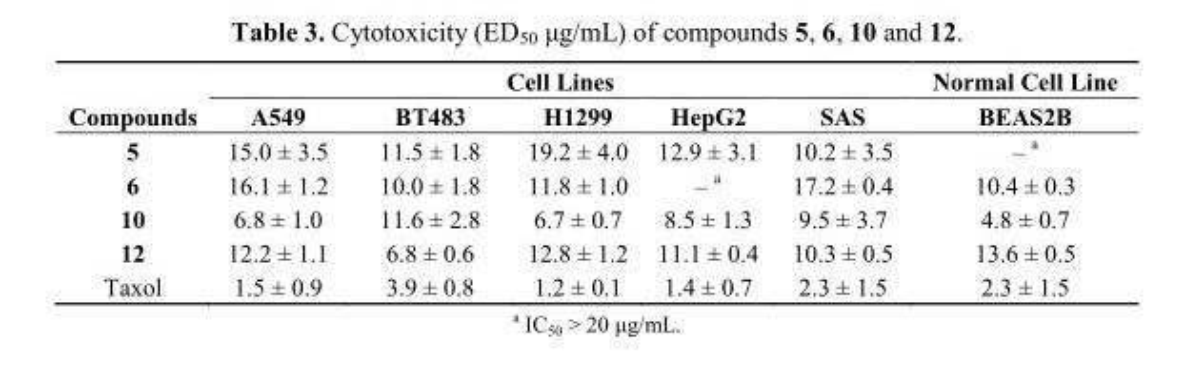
<table><thead><tr><td rowspan="2">Compounds</td><td colspan="5">Cell Lines</td><td rowspan="2">Normal Cell Line BEAS2B</td></tr><tr><td>A549</td><td>BT483</td><td>H1299</td><td>HepG2</td><td>SAS</td></tr></thead><tbody><tr><td>5</td><td>15.0 ± 3.5</td><td>11.5 ± 1.8</td><td>19.2 ± 4.0</td><td>12.9 ± 3.1</td><td>10.2 ± 3.5</td><td>– <sup>a</sup></td></tr><tr><td>6</td><td>16.1 ± 1.2</td><td>10.0 ± 1.8</td><td>11.8 ± 1.0</td><td>– <sup>a</sup></td><td>17.2 ± 0.4</td><td>10.4 ± 0.3</td></tr><tr><td>10</td><td>6.8 ± 1.0</td><td>11.6 ± 2.8</td><td>6.7 ± 0.7</td><td>8.5 ± 1.3</td><td>9.5 ± 3.7</td><td>4.8 ± 0.7</td></tr><tr><td>12</td><td>12.2 ± 1.1</td><td>6.8 ± 0.6</td><td>12.8 ± 1.2</td><td>11.1 ± 0.4</td><td>10.3 ± 0.5</td><td>13.6 ± 0.5</td></tr><tr><td>Taxol</td><td>1.5 ± 0.9</td><td>3.9 ± 0.8</td><td>1.2 ± 0.1</td><td>1.4 ± 0.7</td><td>2.3 ± 1.5</td><td>2.3 ± 1.5</td></tr></tbody></table>